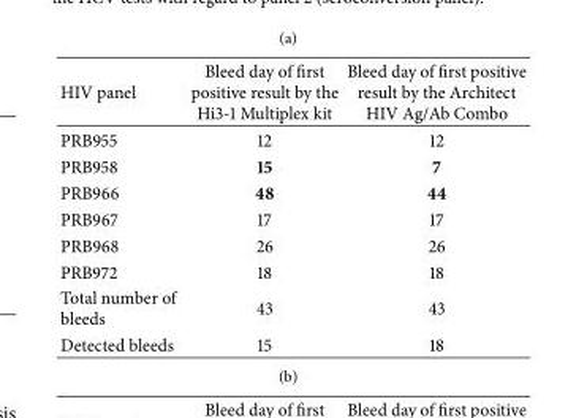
<table><thead><tr><td>HIV panel</td><td>Bleed day of first positive result by the Hi3-1 Multiplex kit</td><td>Bleed day of first positive result by the Architect HIV Ag/Ab Combo</td></tr></thead><tbody><tr><td>PRB955</td><td>12</td><td>12</td></tr><tr><td>PRB958</td><td>15</td><td>7</td></tr><tr><td>PRB966</td><td>48</td><td>44</td></tr><tr><td>PRB967</td><td>17</td><td>17</td></tr><tr><td>PRB968</td><td>26</td><td>26</td></tr><tr><td>PRB972</td><td>18</td><td>18</td></tr><tr><td>Total number of bleeds</td><td>43</td><td>43</td></tr><tr><td>Detected bleeds</td><td>15</td><td>18</td></tr></tbody></table>